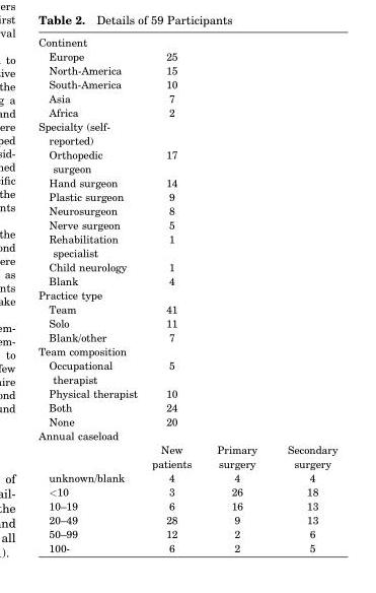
<table><tbody><tr><td colspan="4">Continent</td></tr><tr><td>Europe</td><td>25</td><td></td><td></td></tr><tr><td>North-America</td><td>15</td><td></td><td></td></tr><tr><td>South-America</td><td>10</td><td></td><td></td></tr><tr><td>Asia</td><td>7</td><td></td><td></td></tr><tr><td>Africa</td><td>2</td><td></td><td></td></tr><tr><td colspan="4">Specialty (self- reported)</td></tr><tr><td>Orthopedic surgeon</td><td>17</td><td></td><td></td></tr><tr><td>Hand surgeon</td><td>14</td><td></td><td></td></tr><tr><td>Plastic surgeon</td><td>9</td><td></td><td></td></tr><tr><td>Neurosurgeon</td><td>8</td><td></td><td></td></tr><tr><td>Nerve surgeon</td><td>5</td><td></td><td></td></tr><tr><td>Rehabilitation specialist</td><td>1</td><td></td><td></td></tr><tr><td>Child neurology</td><td>1</td><td></td><td></td></tr><tr><td>Blank</td><td>4</td><td></td><td></td></tr><tr><td colspan="4">Practice type</td></tr><tr><td>Team</td><td>41</td><td></td><td></td></tr><tr><td>Solo</td><td>11</td><td></td><td></td></tr><tr><td>Blank/other</td><td>7</td><td></td><td></td></tr><tr><td colspan="4">Team composition</td></tr><tr><td>Occupational therapist</td><td>5</td><td></td><td></td></tr><tr><td>Physical therapist</td><td>10</td><td></td><td></td></tr><tr><td>Both</td><td>24</td><td></td><td></td></tr><tr><td>None</td><td>20</td><td></td><td></td></tr><tr><td colspan="4">Annual caseload</td></tr><tr><td></td><td>New patients</td><td>Primary surgery</td><td>Secondary surgery</td></tr><tr><td>unknown/blank</td><td>4</td><td>4</td><td>4</td></tr><tr><td>&lt;10</td><td>3</td><td>26</td><td>18</td></tr><tr><td>10–19</td><td>6</td><td>16</td><td>13</td></tr><tr><td>20–49</td><td>28</td><td>9</td><td>13</td></tr><tr><td>50–99</td><td>12</td><td>2</td><td>6</td></tr><tr><td>100-</td><td>6</td><td>2</td><td>5</td></tr></tbody></table>